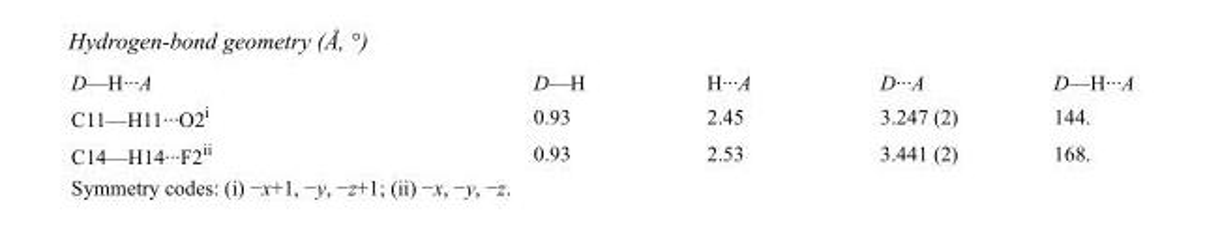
<table><tbody><tr><td>D—H···A</td><td>D—H</td><td>H···A</td><td>D···A</td><td>D—H···A</td></tr><tr><td>C11—H11···O2<sup>i</sup></td><td>0.93</td><td>2.45</td><td>3.247 (2)</td><td>144.</td></tr><tr><td>C14—H14···F2<sup>ii</sup></td><td>0.93</td><td>2.53</td><td>3.441 (2)</td><td>168.</td></tr></tbody></table>